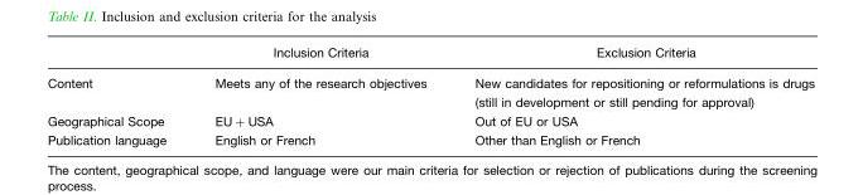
<table><thead><tr><td></td><td>Inclusion Criteria</td><td>Exclusion Criteria</td></tr></thead><tbody><tr><td>Content</td><td>Meets any of the research objectives</td><td>New candidates for repositioning or reformulations is drugs (still in development or still pending for approval)</td></tr><tr><td>Geographical Scope</td><td>EU+USA</td><td>Out of EU or USA</td></tr><tr><td>Publication language</td><td>English or French</td><td>Other than English or French</td></tr></tbody></table>